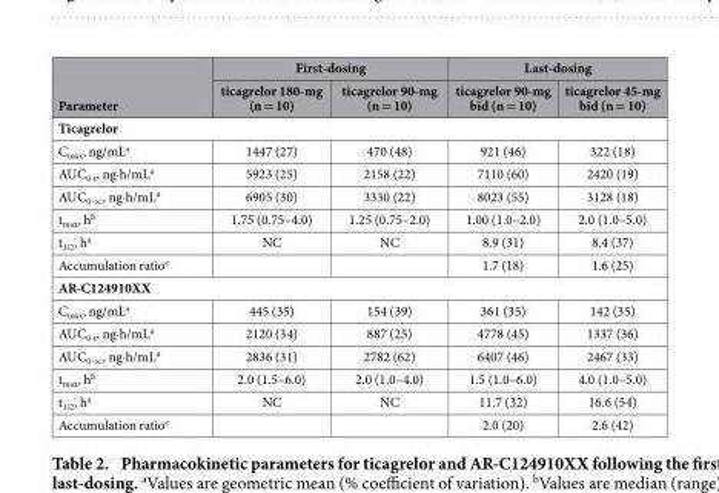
<table><thead><tr><td rowspan="2">Parameter</td><td colspan="2">First-dosing</td><td colspan="2">Last-dosing</td></tr><tr><td>ticagrelor 180-mg (n = 10)</td><td>ticagrelor 90-mg (n = 10)</td><td>ticagrelor 90-mg bid (n = 10)</td><td>ticagrelor 45-mg bid (n = 10)</td></tr></thead><tbody><tr><td colspan="5">Ticagrelor</td></tr><tr><td>C<sub>max</sub>, ng/mL<sup>a</sup></td><td>1447 (27)</td><td>470 (48)</td><td>921 (46)</td><td>322 (18)</td></tr><tr><td>AUC<sub>0-t</sub>, ng·h/mL<sup>a</sup></td><td>5923 (25)</td><td>2158 (22)</td><td>7110 (60)</td><td>2420 (19)</td></tr><tr><td>AUC<sub>0-∞</sub>, ng·h/mL<sup>a</sup></td><td>6905 (30)</td><td>3330 (22)</td><td>8023 (55)</td><td>3128 (18)</td></tr><tr><td>t<sub>max</sub>, h<sup>b</sup></td><td>1.75 (0.75–4.0)</td><td>1.25 (0.75–2.0)</td><td>1.00 (1.0–2.0)</td><td>2.0 (1.0–5.0)</td></tr><tr><td>t<sub>1/2</sub>, h<sup>a</sup></td><td>NC</td><td>NC</td><td>8.9 (31)</td><td>8.4 (37)</td></tr><tr><td>Accumulation ratio<sup>c</sup></td><td></td><td></td><td>1.7 (18)</td><td>1.6 (25)</td></tr><tr><td colspan="5">AR-C124910XX</td></tr><tr><td>C<sub>max</sub>, ng/mL<sup>a</sup></td><td>445 (35)</td><td>154 (39)</td><td>361 (35)</td><td>142 (35)</td></tr><tr><td>AUC<sub>0-t</sub>, ng·h/mL<sup>a</sup></td><td>2120 (34)</td><td>887 (25)</td><td>4778 (45)</td><td>1337 (36)</td></tr><tr><td>AUC<sub>0-∞</sub>, ng·h/mL<sup>a</sup></td><td>2836 (31)</td><td>2782 (62)</td><td>6407 (46)</td><td>2467 (33)</td></tr><tr><td>t<sub>max</sub>, h<sup>b</sup></td><td>2.0 (1.5–6.0)</td><td>2.0 (1.0–4.0)</td><td>1.5 (1.0–6.0)</td><td>4.0 (1.0–5.0)</td></tr><tr><td>t<sub>1/2</sub>, h<sup>a</sup></td><td>NC</td><td>NC</td><td>11.7 (32)</td><td>16.6 (54)</td></tr><tr><td>Accumulation ratio<sup>c</sup></td><td></td><td></td><td>2.0 (20)</td><td>2.6 (42)</td></tr></tbody></table>